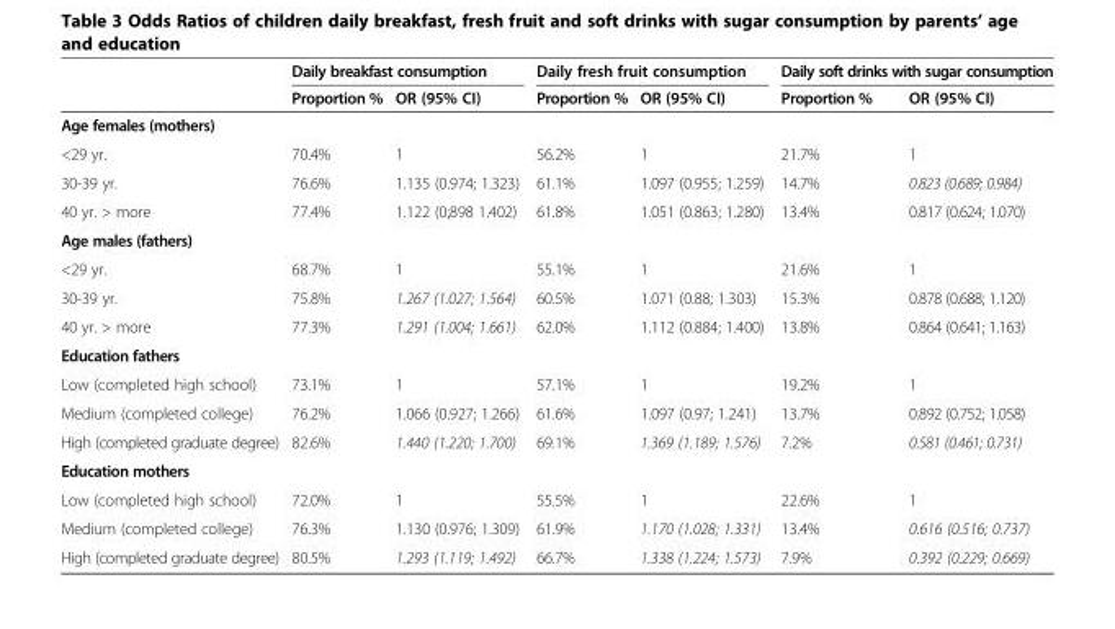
<table><thead><tr><td rowspan="2"></td><td colspan="2">Daily breakfast consumption</td><td colspan="2">Daily fresh fruit consumption</td><td colspan="2">Daily soft drinks with sugar consumption</td></tr><tr><td>Proportion %</td><td>OR (95% CI)</td><td>Proportion %</td><td>OR (95% CI)</td><td>Proportion %</td><td>OR (95% CI)</td></tr></thead><tbody><tr><td colspan="7">Age females (mothers)</td></tr><tr><td>&lt;29 yr.</td><td>70.4%</td><td>1</td><td>56.2%</td><td>1</td><td>21.7%</td><td>1</td></tr><tr><td>30-39 yr.</td><td>76.6%</td><td>1.135 (0.974; 1.323)</td><td>61.1%</td><td>1.097 (0.955; 1.259)</td><td>14.7%</td><td>0.823 (0.689; 0.984)</td></tr><tr><td>40 yr. &gt; more</td><td>77.4%</td><td>1.122 (0;898 1.402)</td><td>61.8%</td><td>1.051 (0.863; 1.280)</td><td>13.4%</td><td>0.817 (0.624; 1.070)</td></tr><tr><td colspan="7">Age males (fathers)</td></tr><tr><td>&lt;29 yr.</td><td>68.7%</td><td>1</td><td>55.1%</td><td>1</td><td>21.6%</td><td>1</td></tr><tr><td>30-39 yr.</td><td>75.8%</td><td>1.267 (1.027; 1.564)</td><td>60.5%</td><td>1.071 (0.88; 1.303)</td><td>15.3%</td><td>0.878 (0.688; 1.120)</td></tr><tr><td>40 yr. &gt; more</td><td>77.3%</td><td>1.291 (1.004; 1.661)</td><td>62.0%</td><td>1.112 (0.884; 1.400)</td><td>13.8%</td><td>0.864 (0.641; 1.163)</td></tr><tr><td colspan="7">Education fathers</td></tr><tr><td>Low (completed high school)</td><td>73.1%</td><td>1</td><td>57.1%</td><td>1</td><td>19.2%</td><td>1</td></tr><tr><td>Medium (completed college)</td><td>76.2%</td><td>1.066 (0.927; 1.266)</td><td>61.6%</td><td>1.097 (0.97; 1.241)</td><td>13.7%</td><td>0.892 (0.752; 1.058)</td></tr><tr><td>High (completed graduate degree)</td><td>82.6%</td><td>1.440 (1.220; 1.700)</td><td>69.1%</td><td>1.369 (1.189; 1.576)</td><td>7.2%</td><td>0.581 (0.461; 0.731)</td></tr><tr><td colspan="7">Education mothers</td></tr><tr><td>Low (completed high school)</td><td>72.0%</td><td>1</td><td>55.5%</td><td>1</td><td>22.6%</td><td>1</td></tr><tr><td>Medium (completed college)</td><td>76.3%</td><td>1.130 (0.976; 1.309)</td><td>61.9%</td><td>1.170 (1.028; 1.331)</td><td>13.4%</td><td>0.616 (0.516; 0.737)</td></tr><tr><td>High (completed graduate degree)</td><td>80.5%</td><td>1.293 (1.119; 1.492)</td><td>66.7%</td><td>1.338 (1.224; 1.573)</td><td>7.9%</td><td>0.392 (0.229; 0.669)</td></tr></tbody></table>